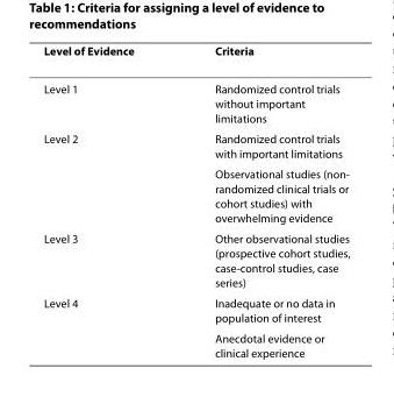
<table><thead><tr><td>Level of Evidence</td><td>Criteria</td></tr></thead><tbody><tr><td>Level 1</td><td>Randomized control trials without important limitations</td></tr><tr><td rowspan="2">Level 2</td><td>Randomized control trials with important limitations</td></tr><tr><td>Observational studies (non- randomized clinical trials or cohort studies) with overwhelming evidence</td></tr><tr><td>Level 3</td><td>Other observational studies (prospective cohort studies, case-control studies, case series)</td></tr><tr><td rowspan="2">Level 4</td><td>Inadequate or no data in population of interest</td></tr><tr><td>Anecdotal evidence or clinical experience</td></tr></tbody></table>